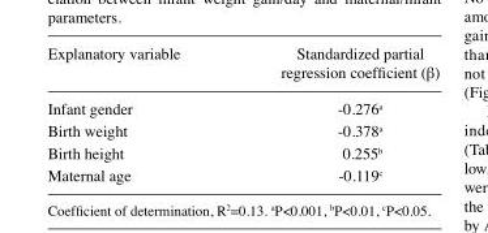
<table><thead><tr><td>Explanatory variable</td><td>Standardized partial regression coefficient (β)</td></tr></thead><tbody><tr><td>Infant gender</td><td>-0.276<sup>a</sup></td></tr><tr><td>Birth weight</td><td>-0.378<sup>a</sup></td></tr><tr><td>Birth height</td><td>0.255<sup>b</sup></td></tr><tr><td>Maternal age</td><td>-0.119<sup>c</sup></td></tr></tbody></table>